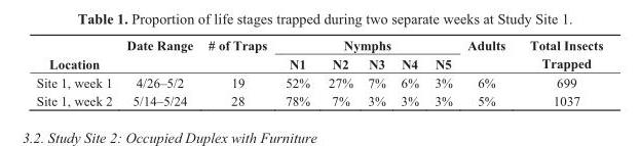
<table><thead><tr><td rowspan="2">Location</td><td rowspan="2">Date Range</td><td rowspan="2"># of Traps</td><td colspan="5">Nymphs</td><td rowspan="2">Adults</td><td rowspan="2">Total Insects Trapped</td></tr><tr><td>N1</td><td>N2</td><td>N3</td><td>N4</td><td>N5</td></tr></thead><tbody><tr><td>Site 1, week 1</td><td>4/26–5/2</td><td>19</td><td>52%</td><td>27%</td><td>7%</td><td>6%</td><td>3%</td><td>6%</td><td>699</td></tr><tr><td>Site 1, week 2</td><td>5/14–5/24</td><td>28</td><td>78%</td><td>7%</td><td>3%</td><td>3%</td><td>3%</td><td>5%</td><td>1037</td></tr></tbody></table>